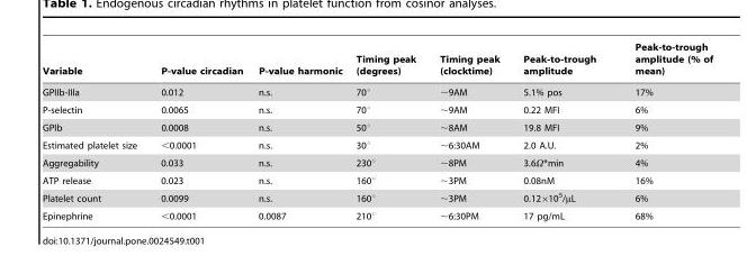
<table><thead><tr><td>Variable</td><td>P-value circadian</td><td>P-value harmonic</td><td>Timing peak (degrees)</td><td>Timing peak (clocktime)</td><td>Peak-to-trough amplitude</td><td>Peak-to-trough amplitude (% of mean)</td></tr></thead><tbody><tr><td>GPIIb-IIIa</td><td>0.012</td><td>n.s.</td><td>70°</td><td>∼9AM</td><td>5.1% pos</td><td>17%</td></tr><tr><td>P-selectin</td><td>0.0065</td><td>n.s.</td><td>70°</td><td>∼9AM</td><td>0.22 MFI</td><td>6%</td></tr><tr><td>GPIb</td><td>0.0008</td><td>n.s.</td><td>50°</td><td>∼8AM</td><td>19.8 MFI</td><td>9%</td></tr><tr><td>Estimated platelet size</td><td>&lt;0.0001</td><td>n.s.</td><td>30°</td><td>∼6:30AM</td><td>2.0 A.U.</td><td>2%</td></tr><tr><td>Aggregability</td><td>0.033</td><td>n.s.</td><td>230°</td><td>∼8PM</td><td>3.6Ω*min</td><td>4%</td></tr><tr><td>ATP release</td><td>0.023</td><td>n.s.</td><td>160°</td><td>∼3PM</td><td>0.08nM</td><td>16%</td></tr><tr><td>Platelet count</td><td>0.0099</td><td>n.s.</td><td>160°</td><td>∼3PM</td><td>0.12×10<sup>5</sup>/µL</td><td>6%</td></tr><tr><td>Epinephrine</td><td>&lt;0.0001</td><td>0.0087</td><td>210°</td><td>∼6:30PM</td><td>17 pg/mL</td><td>68%</td></tr></tbody></table>